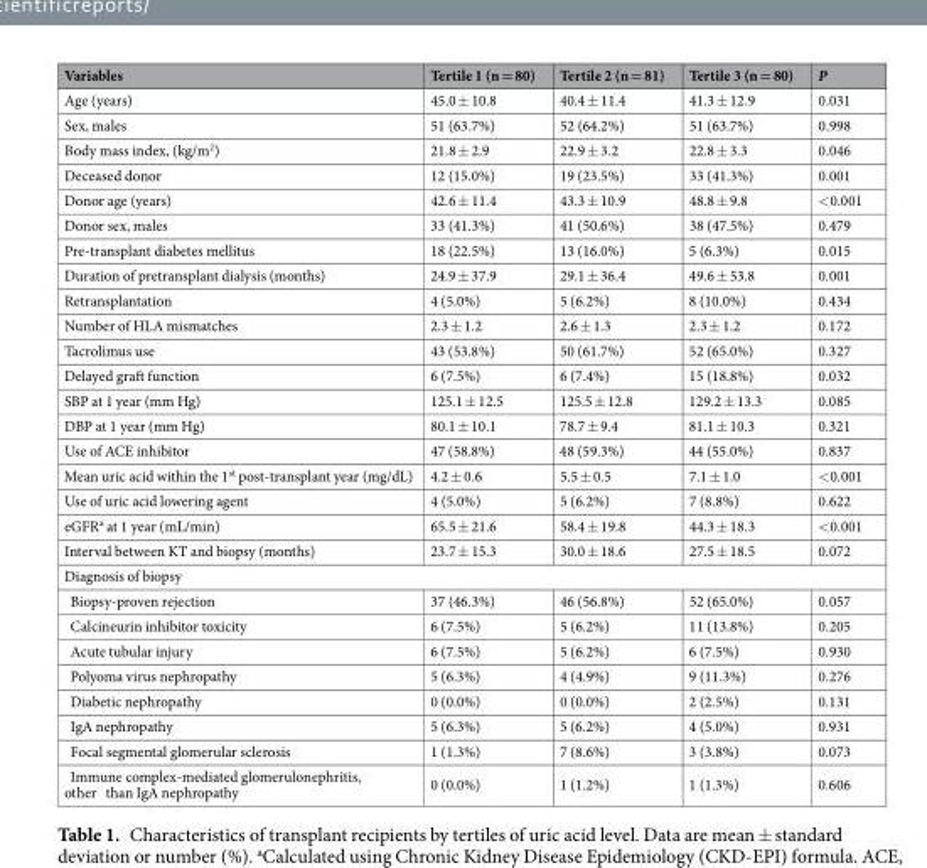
<table><thead><tr><td>Variables</td><td>Tertile 1 (n = 80)</td><td>Tertile 2 (n = 81)</td><td>Tertile 3 (n = 80)</td><td>P</td></tr></thead><tbody><tr><td>Age (years)</td><td>45.0 ± 10.8</td><td>40.4 ± 11.4</td><td>41.3 ± 12.9</td><td>0.031</td></tr><tr><td>Sex, males</td><td>51 (63.7%)</td><td>52 (64.2%)</td><td>51 (63.7%)</td><td>0.998</td></tr><tr><td>Body mass index, (kg/m<sup>2</sup>)</td><td>21.8 ± 2.9</td><td>22.9 ± 3.2</td><td>22.8 ± 3.3</td><td>0.046</td></tr><tr><td>Deceased donor</td><td>12 (15.0%)</td><td>19 (23.5%)</td><td>33 (41.3%)</td><td>0.001</td></tr><tr><td>Donor age (years)</td><td>42.6 ± 11.4</td><td>43.3 ± 10.9</td><td>48.8 ± 9.8</td><td>&lt;0.001</td></tr><tr><td>Donor sex, males</td><td>33 (41.3%)</td><td>41 (50.6%)</td><td>38 (47.5%)</td><td>0.479</td></tr><tr><td>Pre-transplant diabetes mellitus</td><td>18 (22.5%)</td><td>13 (16.0%)</td><td>5 (6.3%)</td><td>0.015</td></tr><tr><td>Duration of pretransplant dialysis (months)</td><td>24.9 ± 37.9</td><td>29.1 ± 36.4</td><td>49.6 ± 53.8</td><td>0.001</td></tr><tr><td>Retransplantation</td><td>4 (5.0%)</td><td>5 (6.2%)</td><td>8 (10.0%)</td><td>0.434</td></tr><tr><td>Number of HLA mismatches</td><td>2.3 ± 1.2</td><td>2.6 ± 1.3</td><td>2.3 ± 1.2</td><td>0.172</td></tr><tr><td>Tacrolimus use</td><td>43 (53.8%)</td><td>50 (61.7%)</td><td>52 (65.0%)</td><td>0.327</td></tr><tr><td>Delayed graft function</td><td>6 (7.5%)</td><td>6 (7.4%)</td><td>15 (18.8%)</td><td>0.032</td></tr><tr><td>SBP at 1 year (mm Hg)</td><td>125.1 ± 12.5</td><td>125.5 ± 12.8</td><td>129.2 ± 13.3</td><td>0.085</td></tr><tr><td>DBP at 1 year (mm Hg)</td><td>80.1 ± 10.1</td><td>78.7 ± 9.4</td><td>81.1 ± 10.3</td><td>0.321</td></tr><tr><td>Use of ACE inhibitor</td><td>47 (58.8%)</td><td>48 (59.3%)</td><td>44 (55.0%)</td><td>0.837</td></tr><tr><td>Mean uric acid within the 1<sup>st</sup> post-transplant year (mg/dL)</td><td>4.2 ± 0.6</td><td>5.5 ± 0.5</td><td>7.1 ± 1.0</td><td>&lt;0.001</td></tr><tr><td>Use of uric acid lowering agent</td><td>4 (5.0%)</td><td>5 (6.2%)</td><td>7 (8.8%)</td><td>0.622</td></tr><tr><td>eGFR<sup>a</sup> at 1 year (mL/min)</td><td>65.5 ± 21.6</td><td>58.4 ± 19.8</td><td>44.3 ± 18.3</td><td>&lt;0.001</td></tr><tr><td>Interval between KT and biopsy (months)</td><td>23.7 ± 15.3</td><td>30.0 ± 18.6</td><td>27.5 ± 18.5</td><td>0.072</td></tr><tr><td colspan="5">Diagnosis of biopsy</td></tr><tr><td>Biopsy-proven rejection</td><td>37 (46.3%)</td><td>46 (56.8%)</td><td>52 (65.0%)</td><td>0.057</td></tr><tr><td>Calcineurin inhibitor toxicity</td><td>6 (7.5%)</td><td>5 (6.2%)</td><td>11 (13.8%)</td><td>0.205</td></tr><tr><td>Acute tubular injury</td><td>6 (7.5%)</td><td>5 (6.2%)</td><td>6 (7.5%)</td><td>0.930</td></tr><tr><td>Polyoma virus nephropathy</td><td>5 (6.3%)</td><td>4 (4.9%)</td><td>9 (11.3%)</td><td>0.276</td></tr><tr><td>Diabetic nephropathy</td><td>0 (0.0%)</td><td>0 (0.0%)</td><td>2 (2.5%)</td><td>0.131</td></tr><tr><td>IgA nephropathy</td><td>5 (6.3%)</td><td>5 (6.2%)</td><td>4 (5.0%)</td><td>0.931</td></tr><tr><td>Focal segmental glomerular sclerosis</td><td>1 (1.3%)</td><td>7 (8.6%)</td><td>3 (3.8%)</td><td>0.073</td></tr><tr><td>Immune complex-mediated glomerulonephritis, other than IgA nephropathy</td><td>0 (0.0%)</td><td>1 (1.2%)</td><td>1 (1.3%)</td><td>0.606</td></tr></tbody></table>